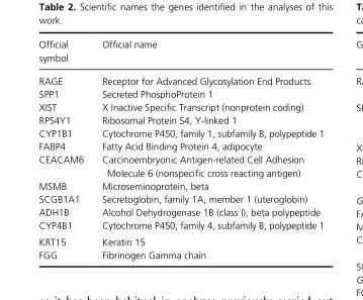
<table><thead><tr><td>Official symbol</td><td>Official name</td></tr></thead><tbody><tr><td>RAGE</td><td>Receptor for Advanced Glycosylation End Products</td></tr><tr><td>SPP1</td><td>Secreted PhosphoProtein 1</td></tr><tr><td>XIST</td><td>X Inactive Specific Transcript (nonprotein coding)</td></tr><tr><td>RPS4Y1</td><td>Ribosomal Protein S4, Y- linked 1</td></tr><tr><td>CYP1B1</td><td>Cytochrome P450, family 1, subfamily B, polypeptide 1</td></tr><tr><td>FABP4</td><td>Fatty Acid Binding Protein 4, adipocyte</td></tr><tr><td>CEACAM6</td><td>Carcinoembryonic Antigen- related Cell Adhesion Molecule 6 (nonspecific cross reacting antigen)</td></tr><tr><td>MSMB</td><td>Microseminoprotein, beta</td></tr><tr><td>SCGB1A1</td><td>Secretoglobin, family 1A, member 1 (uteroglobin)</td></tr><tr><td>ADH1B</td><td>Alcohol Dehydrogenase 1B (class I), beta polypeptide</td></tr><tr><td>CYP4B1</td><td>Cytochrome P450, family 4, subfamily B, polypeptide 1</td></tr><tr><td>KRT15</td><td>Keratin 15</td></tr><tr><td>FGG</td><td>Fibrinogen Gamma chain</td></tr></tbody></table>